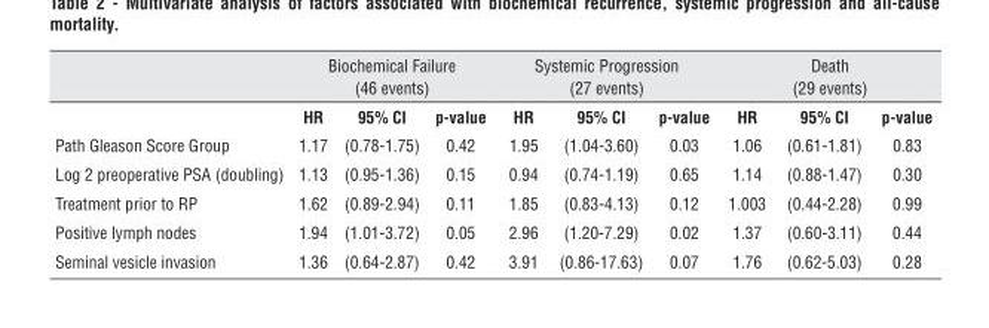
<table><thead><tr><td rowspan="2"></td><td colspan="3">Biochemical Failure (46 events)</td><td colspan="3">Systemic Progression (27 events)</td><td rowspan="2">hR</td><td rowspan="2">Death (29 events) 95% cI</td><td rowspan="2">p-value</td></tr><tr><td>hR</td><td>95% cI</td><td>p-value</td><td>hR</td><td>95% cI</td><td>p-value</td></tr></thead><tbody><tr><td>Path Gleason Score Group</td><td>1.17</td><td>(0.78-1.75)</td><td>0.42</td><td>1.95</td><td>(1.04-3.60)</td><td>0.03</td><td>1.06</td><td>(0.61-1.81)</td><td>0.83</td></tr><tr><td>Log 2 preoperative PSA (doubling)</td><td>1.13</td><td>(0.95-1.36)</td><td>0.15</td><td>0.94</td><td>(0.74-1.19)</td><td>0.65</td><td>1.14</td><td>(0.88-1.47)</td><td>0.30</td></tr><tr><td>Treatment prior to RP</td><td>1.62</td><td>(0.89-2.94)</td><td>0.11</td><td>1.85</td><td>(0.83-4.13)</td><td>0.12</td><td>1.003</td><td>(0.44-2.28)</td><td>0.99</td></tr><tr><td>Positive lymph nodes</td><td>1.94</td><td>(1.01-3.72)</td><td>0.05</td><td>2.96</td><td>(1.20-7.29)</td><td>0.02</td><td>1.37</td><td>(0.60-3.11)</td><td>0.44</td></tr><tr><td>Seminal vesicle invasion</td><td>1.36</td><td>(0.64-2.87)</td><td>0.42</td><td>3.91</td><td>(0.86-17.63)</td><td>0.07</td><td>1.76</td><td>(0.62-5.03)</td><td>0.28</td></tr></tbody></table>